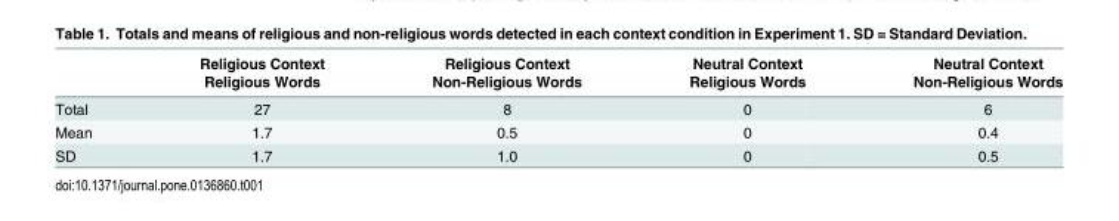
<table><thead><tr><td rowspan="2"></td><td rowspan="2">Religious Context Religious Words</td><td rowspan="2">Religious Context Non-Religious Words</td><td rowspan="2">Neutral Context Religious Words</td><td rowspan="2">Neutral Context Non-Religious Words</td></tr><tr></tr></thead><tbody><tr><td>Total</td><td>27</td><td>8</td><td>0</td><td>6</td></tr><tr><td>Mean</td><td>1.7</td><td>0.5</td><td>0</td><td>0.4</td></tr><tr><td>SD</td><td>1.7</td><td>1.0</td><td>0</td><td>0.5</td></tr></tbody></table>